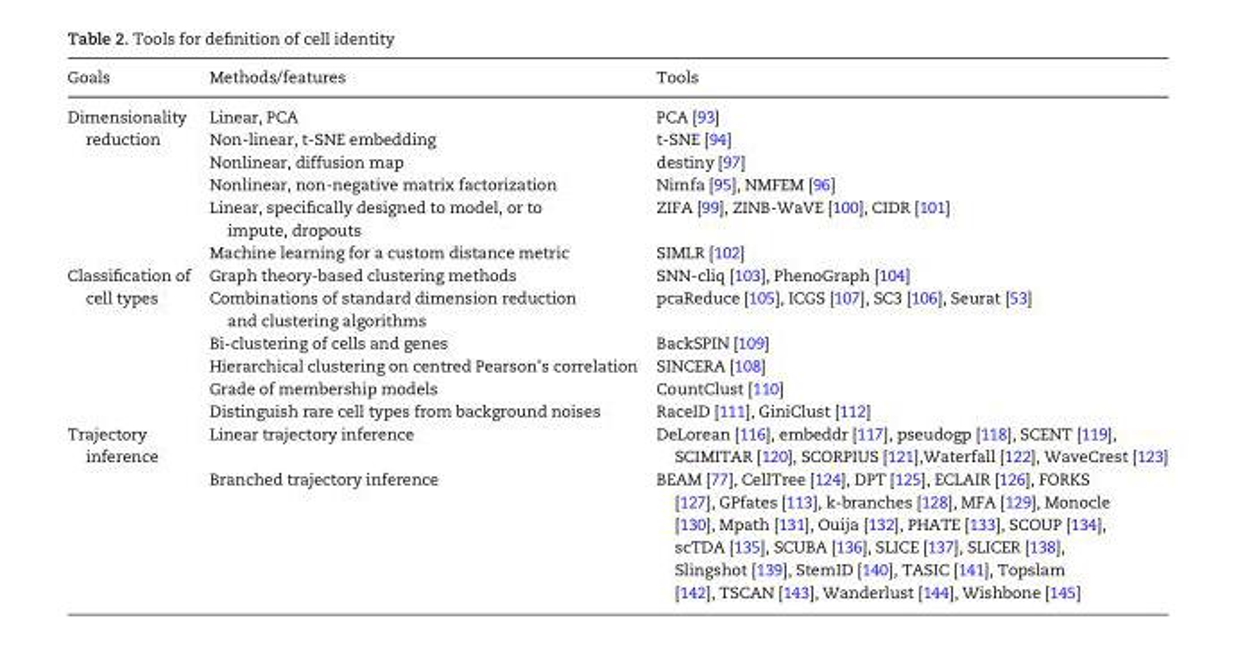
<table><thead><tr><td>Goals</td><td>Methods/features</td><td>Tools</td></tr></thead><tbody><tr><td rowspan="6">Dimensionality reduction</td><td>Linear, PCA</td><td>PCA [93]</td></tr><tr><td>Non-linear, t-SNE embedding</td><td>t-SNE [94]</td></tr><tr><td>Nonlinear, diffusion map</td><td>destiny [97]</td></tr><tr><td>Nonlinear, non-negative matrix factorization</td><td>Nimfa [95], NMFEM [96]</td></tr><tr><td>Linear, specifically designed to model, or to impute, dropouts</td><td>ZIFA [99], ZINB-WaVE [100], CIDR [101]</td></tr><tr><td>Machine learning for a custom distance metric</td><td>SIMLR [102]</td></tr><tr><td rowspan="6">Classification of cell types</td><td>Graph theory-based clustering methods</td><td>SNN-cliq [103], PhenoGraph [104]</td></tr><tr><td>Combinations of standard dimension reduction and clustering algorithms</td><td>pcaReduce [105], ICGS [107], SC3 [106], Seurat [53]</td></tr><tr><td>Bi-clustering of cells and genes</td><td>BackSPIN [109]</td></tr><tr><td>Hierarchical clustering on centred Pearson’s correlation</td><td>SINCERA [108]</td></tr><tr><td>Grade of membership models</td><td>CountClust [110]</td></tr><tr><td>Distinguish rare cell types from background noises</td><td>RaceID [111], GiniClust [112]</td></tr><tr><td rowspan="2">Trajectory inference</td><td>Linear trajectory inference</td><td>DeLorean [116], embeddr [117], pseudogp [118], SCENT [119], SCIMITAR [120], SCORPIUS [121],Waterfall [122], WaveCrest [123]</td></tr><tr><td>Branched trajectory inference</td><td>BEAM [77], CellTree [124], DPT [125], ECLAIR [126], FORKS [127], GPfates [113], k-branches [128], MFA [129], Monocle [130], Mpath [131], Ouija [132], PHATE [133], SCOUP [134], scTDA [135], SCUBA [136], SLICE [137], SLICER [138], Slingshot [139], StemID [140], TASIC [141], Topslam [142], TSCAN [143], Wanderlust [144], Wishbone [145]</td></tr></tbody></table>